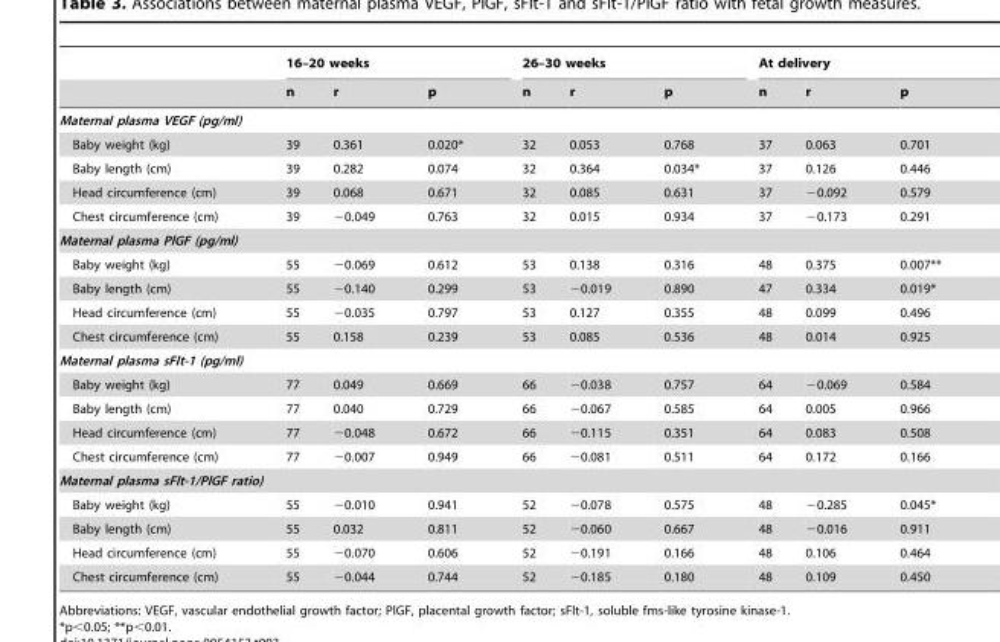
<table><thead><tr><td rowspan="2"></td><td colspan="3">16–20 weeks</td><td colspan="3">26–30 weeks</td><td colspan="3">At delivery</td></tr><tr><td>n</td><td>r</td><td>p</td><td>n</td><td>r</td><td>p</td><td>n</td><td>r</td><td>p</td></tr></thead><tbody><tr><td colspan="10">Maternal plasma VEGF (pg/ml)</td></tr><tr><td>Baby weight (kg)</td><td>39</td><td>0.361</td><td>0.020*</td><td>32</td><td>0.053</td><td>0.768</td><td>37</td><td>0.063</td><td>0.701</td></tr><tr><td>Baby length (cm)</td><td>39</td><td>0.282</td><td>0.074</td><td>32</td><td>0.364</td><td>0.034*</td><td>37</td><td>0.126</td><td>0.446</td></tr><tr><td>Head circumference (cm)</td><td>39</td><td>0.068</td><td>0.671</td><td>32</td><td>0.085</td><td>0.631</td><td>37</td><td>−0.092</td><td>0.579</td></tr><tr><td>Chest circumference (cm)</td><td>39</td><td>−0.049</td><td>0.763</td><td>32</td><td>0.015</td><td>0.934</td><td>37</td><td>−0.173</td><td>0.291</td></tr><tr><td colspan="10">Maternal plasma PlGF (pg/ml)</td></tr><tr><td>Baby weight (kg)</td><td>55</td><td>−0.069</td><td>0.612</td><td>53</td><td>0.138</td><td>0.316</td><td>48</td><td>0.375</td><td>0.007**</td></tr><tr><td>Baby length (cm)</td><td>55</td><td>−0.140</td><td>0.299</td><td>53</td><td>−0.019</td><td>0.890</td><td>47</td><td>0.334</td><td>0.019*</td></tr><tr><td>Head circumference (cm)</td><td>55</td><td>−0.035</td><td>0.797</td><td>53</td><td>0.127</td><td>0.355</td><td>48</td><td>0.099</td><td>0.496</td></tr><tr><td>Chest circumference (cm)</td><td>55</td><td>0.158</td><td>0.239</td><td>53</td><td>0.085</td><td>0.536</td><td>48</td><td>0.014</td><td>0.925</td></tr><tr><td colspan="10">Maternal plasma sFlt-1 (pg/ml)</td></tr><tr><td>Baby weight (kg)</td><td>77</td><td>0.049</td><td>0.669</td><td>66</td><td>−0.038</td><td>0.757</td><td>64</td><td>−0.069</td><td>0.584</td></tr><tr><td>Baby length (cm)</td><td>77</td><td>0.040</td><td>0.729</td><td>66</td><td>−0.067</td><td>0.585</td><td>64</td><td>0.005</td><td>0.966</td></tr><tr><td>Head circumference (cm)</td><td>77</td><td>−0.048</td><td>0.672</td><td>66</td><td>−0.115</td><td>0.351</td><td>64</td><td>0.083</td><td>0.508</td></tr><tr><td>Chest circumference (cm)</td><td>77</td><td>−0.007</td><td>0.949</td><td>66</td><td>−0.081</td><td>0.511</td><td>64</td><td>0.172</td><td>0.166</td></tr><tr><td colspan="10">Maternal plasma sFlt-1/PlGF ratio)</td></tr><tr><td>Baby weight (kg)</td><td>55</td><td>−0.010</td><td>0.941</td><td>52</td><td>−0.078</td><td>0.575</td><td>48</td><td>−0.285</td><td>0.045*</td></tr><tr><td>Baby length (cm)</td><td>55</td><td>0.032</td><td>0.811</td><td>52</td><td>−0.060</td><td>0.667</td><td>48</td><td>−0.016</td><td>0.911</td></tr><tr><td>Head circumference (cm)</td><td>55</td><td>−0.070</td><td>0.606</td><td>52</td><td>−0.191</td><td>0.166</td><td>48</td><td>0.106</td><td>0.464</td></tr><tr><td>Chest circumference (cm)</td><td>55</td><td>−0.044</td><td>0.744</td><td>52</td><td>−0.185</td><td>0.180</td><td>48</td><td>0.109</td><td>0.450</td></tr></tbody></table>